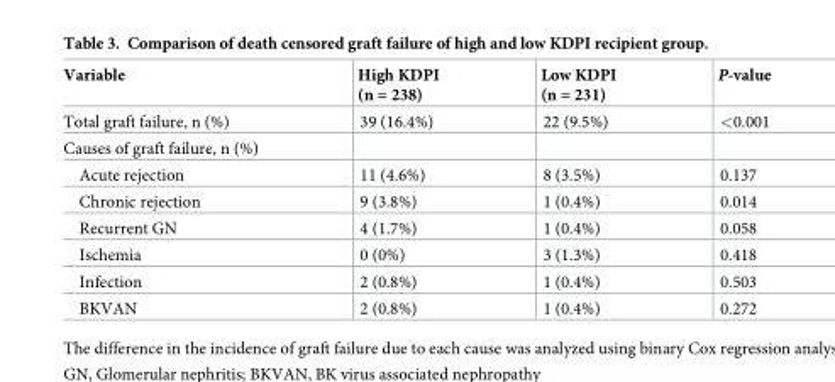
<table><thead><tr><td>Variable</td><td>High KDPI (n = 238)</td><td>Low KDPI (n = 231)</td><td>P-value</td></tr></thead><tbody><tr><td>Total graft failure, n (%)</td><td>39 (16.4%)</td><td>22 (9.5%)</td><td>&lt;0.001</td></tr><tr><td colspan="4">Causes of graft failure, n (%)</td></tr><tr><td>Acute rejection</td><td>11 (4.6%)</td><td>8 (3.5%)</td><td>0.137</td></tr><tr><td>Chronic rejection</td><td>9 (3.8%)</td><td>1 (0.4%)</td><td>0.014</td></tr><tr><td>Recurrent GN</td><td>4 (1.7%)</td><td>1 (0.4%)</td><td>0.058</td></tr><tr><td>Ischemia</td><td>0 (0%)</td><td>3 (1.3%)</td><td>0.418</td></tr><tr><td>Infection</td><td>2 (0.8%)</td><td>1 (0.4%)</td><td>0.503</td></tr><tr><td>BKVAN</td><td>2 (0.8%)</td><td>1 (0.4%)</td><td>0.272</td></tr></tbody></table>